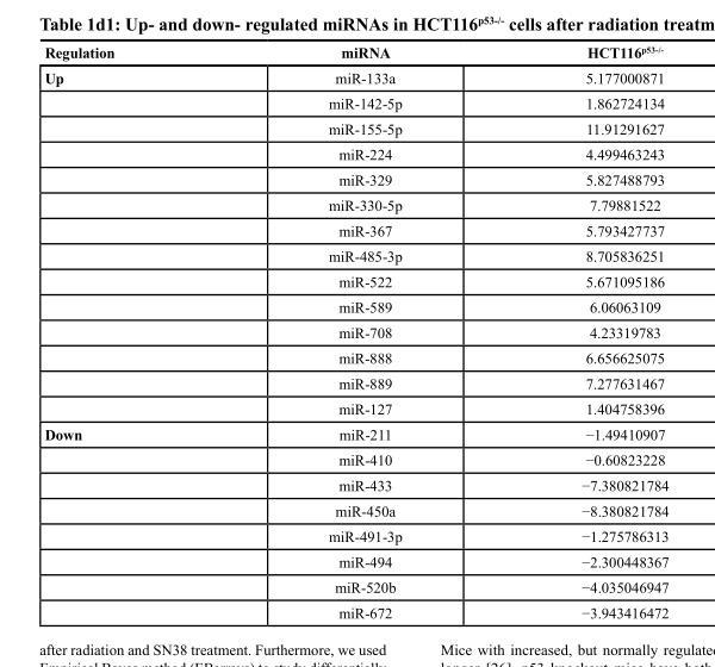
<table><thead><tr><td>Regulation</td><td>miRNA</td><td>HCT116<sup>p53-/-</sup></td></tr></thead><tbody><tr><td rowspan="14">Up</td><td>miR-133a</td><td>5.177000871</td></tr><tr><td>miR-142-5p</td><td>1.862724134</td></tr><tr><td>miR-155-5p</td><td>11.91291627</td></tr><tr><td>miR-224</td><td>4.499463243</td></tr><tr><td>miR-329</td><td>5.827488793</td></tr><tr><td>miR-330-5p</td><td>7.79881522</td></tr><tr><td>miR-367</td><td>5.793427737</td></tr><tr><td>miR-485-3p</td><td>8.705836251</td></tr><tr><td>miR-522</td><td>5.671095186</td></tr><tr><td>miR-589</td><td>6.06063109</td></tr><tr><td>miR-708</td><td>4.23319783</td></tr><tr><td>miR-888</td><td>6.656625075</td></tr><tr><td>miR-889</td><td>7.277631467</td></tr><tr><td>miR-127</td><td>1.404758396</td></tr><tr><td rowspan="8">Down</td><td>miR-211</td><td>−1.49410907</td></tr><tr><td>miR-410</td><td>−0.60823228</td></tr><tr><td>miR-433</td><td>−7.380821784</td></tr><tr><td>miR-450a</td><td>−8.380821784</td></tr><tr><td>miR-491-3p</td><td>−1.275786313</td></tr><tr><td>miR-494</td><td>−2.300448367</td></tr><tr><td>miR-520b</td><td>−4.035046947</td></tr><tr><td>miR-672</td><td>−3.943416472</td></tr></tbody></table>